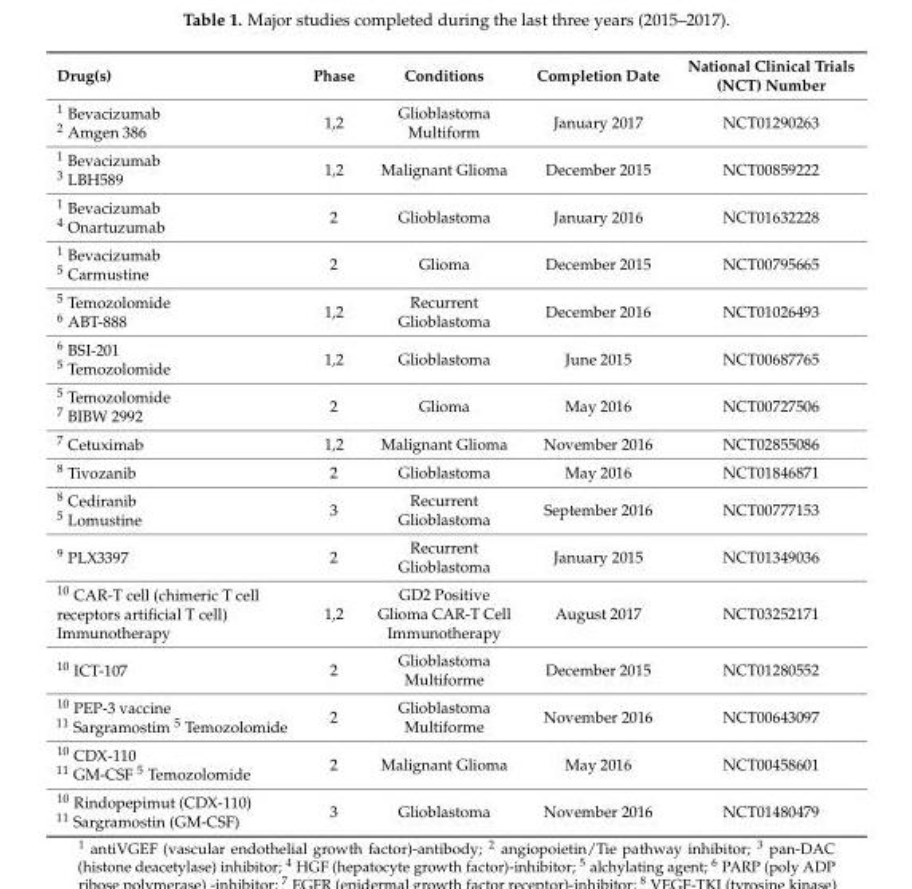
<table><thead><tr><td>Drug(s)</td><td>Phase</td><td>Conditions</td><td>Completion Date</td><td>National Clinical Trials (NCT) Number</td></tr></thead><tbody><tr><td><sup>1</sup> Bevacizumab <sup>2</sup> Amgen 386</td><td>1,2</td><td>Glioblastoma Multiform</td><td>January 2017</td><td>NCT01290263</td></tr><tr><td><sup>1</sup> Bevacizumab <sup>3</sup> LBH589</td><td>1,2</td><td>Malignant Glioma</td><td>December 2015</td><td>NCT00859222</td></tr><tr><td><sup>1</sup> Bevacizumab <sup>4</sup> Onartuzumab</td><td>2</td><td>Glioblastoma</td><td>January 2016</td><td>NCT01632228</td></tr><tr><td><sup>1</sup> Bevacizumab <sup>5</sup> Carmustine</td><td>2</td><td>Glioma</td><td>December 2015</td><td>NCT00795665</td></tr><tr><td><sup>5</sup> Temozolomide <sup>6</sup> ABT-888</td><td>1,2</td><td>Recurrent Glioblastoma</td><td>December 2016</td><td>NCT01026493</td></tr><tr><td><sup>6</sup> BSI-201 <sup>5</sup> Temozolomide</td><td>1,2</td><td>Glioblastoma</td><td>June 2015</td><td>NCT00687765</td></tr><tr><td><sup>5</sup> Temozolomide <sup>7</sup> BIBW 2992</td><td>2</td><td>Glioma</td><td>May 2016</td><td>NCT00727506</td></tr><tr><td><sup>7</sup> Cetuximab</td><td>1,2</td><td>Malignant Glioma</td><td>November 2016</td><td>NCT02855086</td></tr><tr><td><sup>8</sup> Tivozanib</td><td>2</td><td>Glioblastoma</td><td>May 2016</td><td>NCT01846871</td></tr><tr><td><sup>8</sup> Cediranib <sup>5</sup> Lomustine</td><td>3</td><td>Recurrent Glioblastoma</td><td>September 2016</td><td>NCT00777153</td></tr><tr><td><sup>9</sup> PLX3397</td><td>2</td><td>Recurrent Glioblastoma</td><td>January 2015</td><td>NCT01349036</td></tr><tr><td><sup>10</sup> CAR-T cell (chimeric T cell receptors artificial T cell) Immunotherapy</td><td>1,2</td><td>GD2 Positive Glioma CAR-T Cell Immunotherapy</td><td>August 2017</td><td>NCT03252171</td></tr><tr><td><sup>10</sup> ICT-107</td><td>2</td><td>Glioblastoma Multiforme</td><td>December 2015</td><td>NCT01280552</td></tr><tr><td><sup>10</sup> PEP-3 vaccine <sup>11</sup> Sargramostim <sup>5</sup> Temozolomide</td><td>2</td><td>Glioblastoma Multiforme</td><td>November 2016</td><td>NCT00643097</td></tr><tr><td><sup>10</sup> CDX-110 <sup>11</sup> GM-CSF <sup>5</sup> Temozolomide</td><td>2</td><td>Malignant Glioma</td><td>May 2016</td><td>NCT00458601</td></tr><tr><td><sup>10</sup> Rindopepimut (CDX-110) <sup>11</sup> Sargramostin (GM-CSF)</td><td>3</td><td>Glioblastoma</td><td>November 2016</td><td>NCT01480479</td></tr></tbody></table>